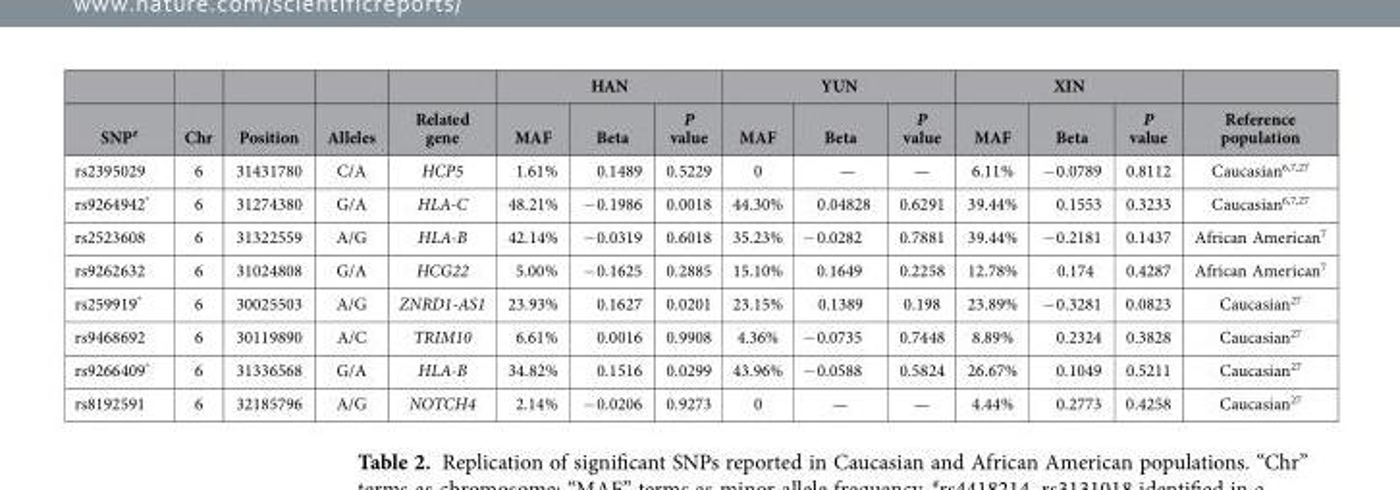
<table><thead><tr><td rowspan="2">SNP#</td><td rowspan="2">Chr</td><td rowspan="2">Position</td><td rowspan="2">Alleles</td><td rowspan="2">Related gene</td><td colspan="3">HAN</td><td colspan="3">YUN</td><td colspan="3">XIN</td><td rowspan="2">Reference population</td></tr><tr><td>MAF</td><td>Beta</td><td>P value</td><td>MAF</td><td>Beta</td><td>P value</td><td>MAF</td><td>Beta</td><td>P value</td></tr></thead><tbody><tr><td>rs2395029</td><td>6</td><td>31431780</td><td>C/A</td><td>HCP5</td><td>1.61%</td><td>0.1489</td><td>0.5229</td><td>0</td><td>—</td><td>—</td><td>6.11%</td><td>− 0.0789</td><td>0.8112</td><td>Caucasian<sup>6</sup>,<sup>7</sup>,<sup>27</sup></td></tr><tr><td>rs9264942*</td><td>6</td><td>31274380</td><td>G/A</td><td>HLA-C</td><td>48.21%</td><td>− 0.1986</td><td>0.0018</td><td>44.30%</td><td>0.04828</td><td>0.6291</td><td>39.44%</td><td>0.1553</td><td>0.3233</td><td>Caucasian<sup>6</sup>,<sup>7</sup>,<sup>27</sup></td></tr><tr><td>rs2523608</td><td>6</td><td>31322559</td><td>A/G</td><td>HLA-B</td><td>42.14%</td><td>− 0.0319</td><td>0.6018</td><td>35.23%</td><td>− 0.0282</td><td>0.7881</td><td>39.44%</td><td>− 0.2181</td><td>0.1437</td><td>African American<sup>7</sup></td></tr><tr><td>rs9262632</td><td>6</td><td>31024808</td><td>G/A</td><td>HCG22</td><td>5.00%</td><td>− 0.1625</td><td>0.2885</td><td>15.10%</td><td>0.1649</td><td>0.2258</td><td>12.78%</td><td>0.174</td><td>0.4287</td><td>African American<sup>7</sup></td></tr><tr><td>rs259919*</td><td>6</td><td>30025503</td><td>A/G</td><td>ZNRD1-AS1</td><td>23.93%</td><td>0.1627</td><td>0.0201</td><td>23.15%</td><td>0.1389</td><td>0.198</td><td>23.89%</td><td>− 0.3281</td><td>0.0823</td><td>Caucasian<sup>27</sup></td></tr><tr><td>rs9468692</td><td>6</td><td>30119890</td><td>A/C</td><td>TRIM10</td><td>6.61%</td><td>0.0016</td><td>0.9908</td><td>4.36%</td><td>− 0.0735</td><td>0.7448</td><td>8.89%</td><td>0.2324</td><td>0.3828</td><td>Caucasian<sup>27</sup></td></tr><tr><td>rs9266409*</td><td>6</td><td>31336568</td><td>G/A</td><td>HLA-B</td><td>34.82%</td><td>0.1516</td><td>0.0299</td><td>43.96%</td><td>− 0.0588</td><td>0.5824</td><td>26.67%</td><td>0.1049</td><td>0.5211</td><td>Caucasian<sup>27</sup></td></tr><tr><td>rs8192591</td><td>6</td><td>32185796</td><td>A/G</td><td>NOTCH4</td><td>2.14%</td><td>− 0.0206</td><td>0.9273</td><td>0</td><td>—</td><td>—</td><td>4.44%</td><td>0.2773</td><td>0.4258</td><td>Caucasian<sup>27</sup></td></tr></tbody></table>